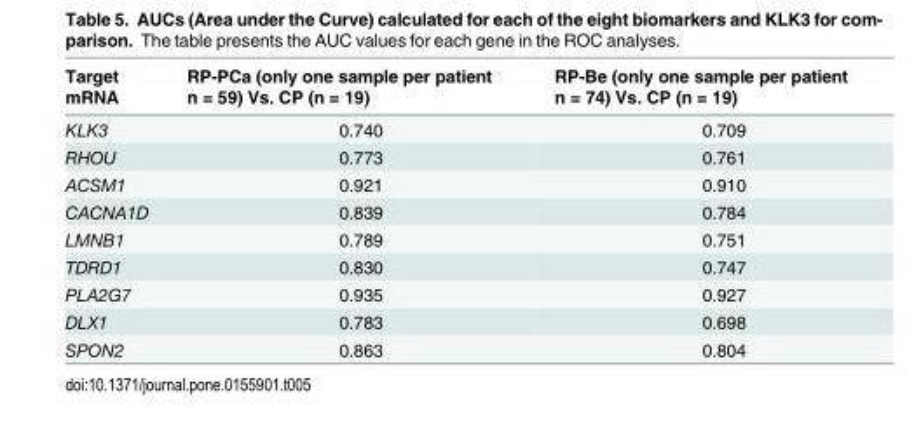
<table><thead><tr><td>Target mRNA</td><td>RP-PCa (only one sample per patient n = 59) Vs. CP (n = 19)</td><td>RP-Be (only one sample per patient n = 74) Vs. CP (n = 19)</td></tr></thead><tbody><tr><td>KLK3</td><td>0.740</td><td>0.709</td></tr><tr><td>RHOU</td><td>0.773</td><td>0.761</td></tr><tr><td>ACSM1</td><td>0.921</td><td>0.910</td></tr><tr><td>CACNA1D</td><td>0.839</td><td>0.784</td></tr><tr><td>LMNB1</td><td>0.789</td><td>0.751</td></tr><tr><td>TDRD1</td><td>0.830</td><td>0.747</td></tr><tr><td>PLA2G7</td><td>0.935</td><td>0.927</td></tr><tr><td>DLX1</td><td>0.783</td><td>0.698</td></tr><tr><td>SPON2</td><td>0.863</td><td>0.804</td></tr></tbody></table>